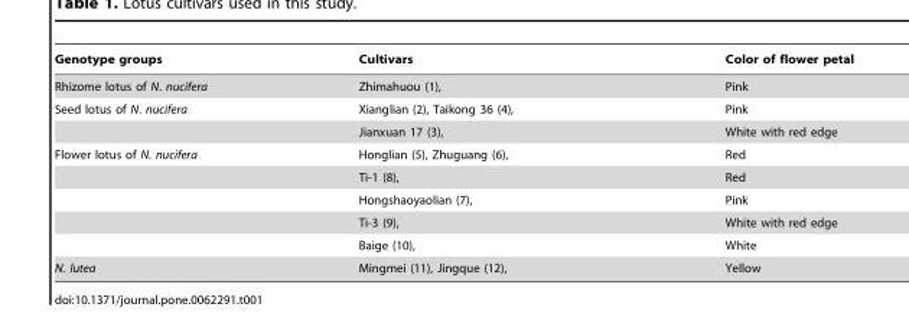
<table><thead><tr><td>Genotype groups</td><td>Cultivars</td><td>Color of flower petal</td></tr></thead><tbody><tr><td>Rhizome lotus of N. nucifera</td><td>Zhimahuou (1),</td><td>Pink</td></tr><tr><td rowspan="2">Seed lotus of N. nucifera</td><td>Xianglian (2), Taikong 36 (4),</td><td>Pink</td></tr><tr><td>Jianxuan 17 (3),</td><td>White with red edge</td></tr><tr><td rowspan="5">Flower lotus of N. nucifera</td><td>Honglian (5), Zhuguang (6),</td><td>Red</td></tr><tr><td>Ti-1 (8),</td><td>Red</td></tr><tr><td>Hongshaoyaolian (7),</td><td>Pink</td></tr><tr><td>Ti-3 (9),</td><td>White with red edge</td></tr><tr><td>Baige (10),</td><td>White</td></tr><tr><td>N. lutea</td><td>Mingmei (11), Jingque (12),</td><td>Yellow</td></tr></tbody></table>